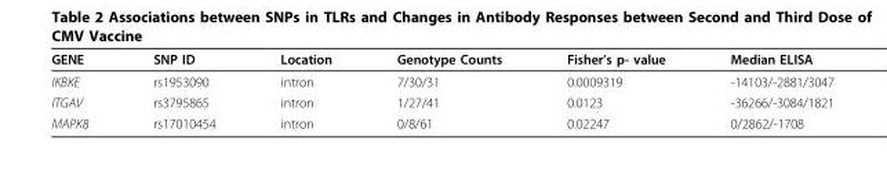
<table><thead><tr><td>GENE</td><td>SNP ID</td><td>Location</td><td>Genotype Counts</td><td>Fisher’s p- value</td><td>Median ELISA</td></tr></thead><tbody><tr><td>IKBKE</td><td>rs1953090</td><td>intron</td><td>7/30/31</td><td>0.0009319</td><td>-14103/-2881/3047</td></tr><tr><td>ITGAV</td><td>rs3795865</td><td>intron</td><td>1/27/41</td><td>0.0123</td><td>-36266/-3084/1821</td></tr><tr><td>MAPK8</td><td>rs17010454</td><td>intron</td><td>0/8/61</td><td>0.02247</td><td>0/2862/-1708</td></tr></tbody></table>